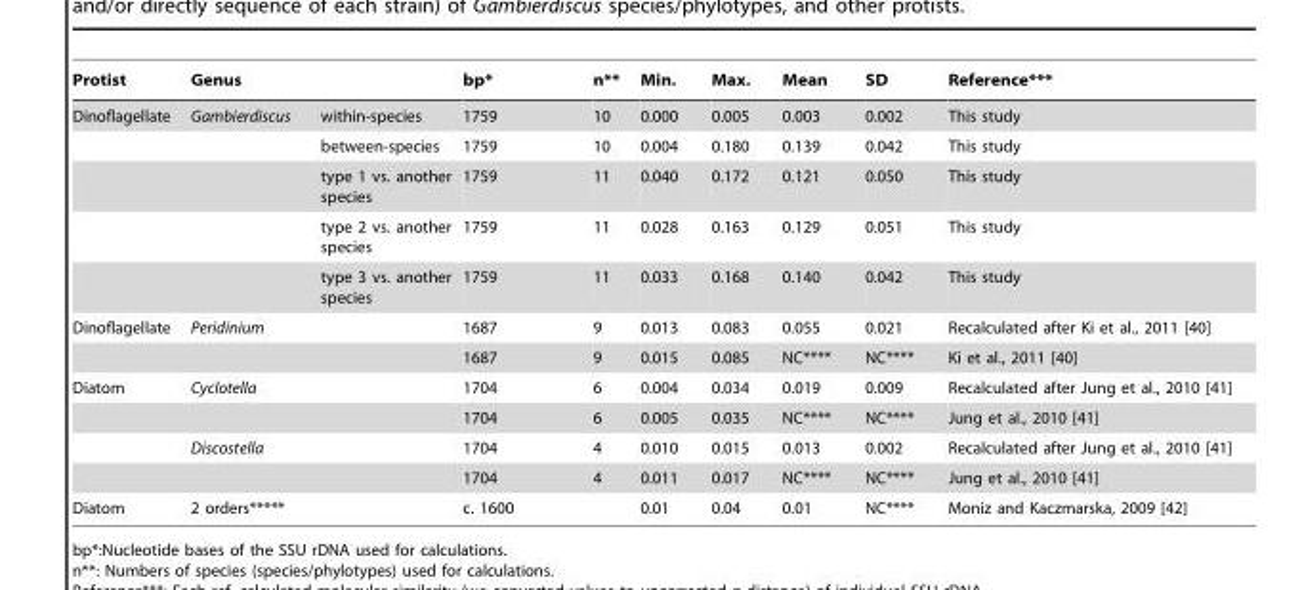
<table><thead><tr><td>Protist</td><td>Genus</td><td></td><td>bp*</td><td>n**</td><td>Min.</td><td>Max.</td><td>Mean</td><td>SD</td><td>Reference***</td></tr></thead><tbody><tr><td rowspan="5">Dinoflagellate</td><td>Gambierdiscus</td><td>within-species</td><td>1759</td><td>10</td><td>0.000</td><td>0.005</td><td>0.003</td><td>0.002</td><td>This study</td></tr><tr><td></td><td>between-species</td><td>1759</td><td>10</td><td>0.004</td><td>0.180</td><td>0.139</td><td>0.042</td><td>This study</td></tr><tr><td></td><td>type 1 vs. another species</td><td>1759</td><td>11</td><td>0.040</td><td>0.172</td><td>0.121</td><td>0.050</td><td>This study</td></tr><tr><td></td><td>type 2 vs. another species</td><td>1759</td><td>11</td><td>0.028</td><td>0.163</td><td>0.129</td><td>0.051</td><td>This study</td></tr><tr><td></td><td>type 3 vs. another species</td><td>1759</td><td>11</td><td>0.033</td><td>0.168</td><td>0.140</td><td>0.042</td><td>This study</td></tr><tr><td rowspan="2">Dinoflagellate</td><td>Peridinium</td><td></td><td>1687</td><td>9</td><td>0.013</td><td>0.083</td><td>0.055</td><td>0.021</td><td>Recalculated after Ki et al., 2011 [40]</td></tr><tr><td></td><td></td><td>1687</td><td>9</td><td>0.015</td><td>0.085</td><td>NC****</td><td>NC****</td><td>Ki et al., 2011 [40]</td></tr><tr><td rowspan="4">Diatom</td><td>Cyclotella</td><td></td><td>1704</td><td>6</td><td>0.004</td><td>0.034</td><td>0.019</td><td>0.009</td><td>Recalculated after Jung et al., 2010 [41]</td></tr><tr><td></td><td></td><td>1704</td><td>6</td><td>0.005</td><td>0.035</td><td>NC****</td><td>NC****</td><td>Jung et al., 2010 [41]</td></tr><tr><td>Discostella</td><td></td><td>1704</td><td>4</td><td>0.010</td><td>0.015</td><td>0.013</td><td>0.002</td><td>Recalculated after Jung et al., 2010 [41]</td></tr><tr><td></td><td></td><td>1704</td><td>4</td><td>0.011</td><td>0.017</td><td>NC****</td><td>NC****</td><td>Jung et al., 2010 [41]</td></tr><tr><td>Diatom</td><td colspan="2">2 orders*****</td><td>c. 1600</td><td></td><td>0.01</td><td>0.04</td><td>0.01</td><td>NC****</td><td>Moniz and Kaczmarska, 2009 [42]</td></tr></tbody></table>